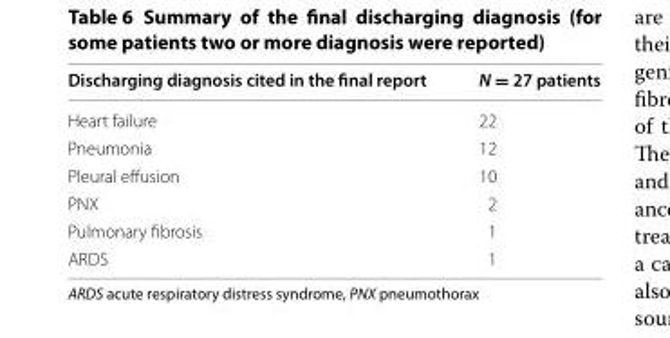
<table><thead><tr><td>Discharging diagnosis cited in the final report</td><td>N = 27 patients</td></tr></thead><tbody><tr><td>Heart failure</td><td>22</td></tr><tr><td>Pneumonia</td><td>12</td></tr><tr><td>Pleural effusion</td><td>10</td></tr><tr><td>PNX</td><td>2</td></tr><tr><td>Pulmonary fibrosis</td><td>1</td></tr><tr><td>ARDS</td><td>1</td></tr></tbody></table>